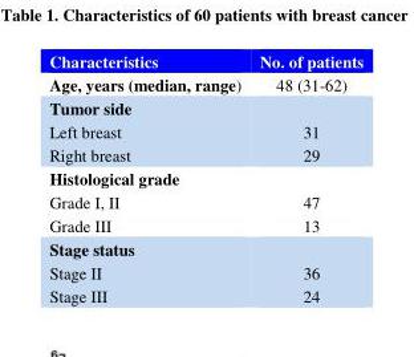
<table><thead><tr><td>Characteristics</td><td>No. of patients</td></tr></thead><tbody><tr><td>Age, years (median, range)</td><td>48 (31-62)</td></tr><tr><td colspan="2">Tumor side</td></tr><tr><td>Left breast Right breast</td><td>31 29</td></tr><tr><td colspan="2">Histological grade</td></tr><tr><td>Grade I, II Grade III</td><td>47 13</td></tr><tr><td colspan="2">Stage status</td></tr><tr><td>Stage II Stage III</td><td>36 24</td></tr></tbody></table>